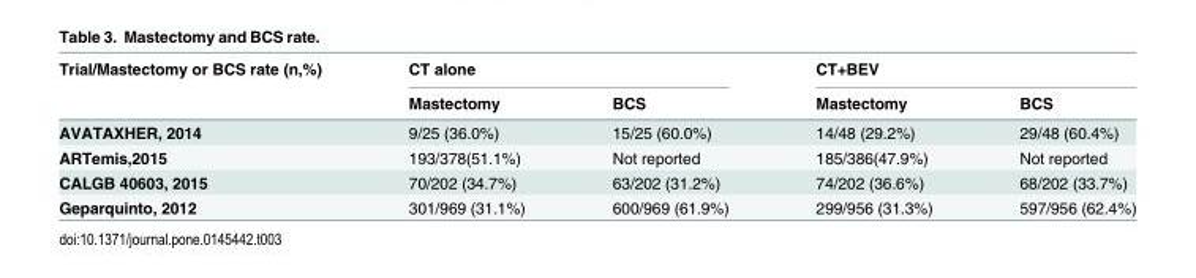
<table><thead><tr><td rowspan="2">Trial/Mastectomy or BCS rate (n,%)</td><td colspan="2">CT alone</td><td colspan="2">CT+BEV</td></tr><tr><td>Mastectomy</td><td>BCS</td><td>Mastectomy</td><td>BCS</td></tr></thead><tbody><tr><td>AVATAXHER, 2014</td><td>9/25 (36.0%)</td><td>15/25 (60.0%)</td><td>14/48 (29.2%)</td><td>29/48 (60.4%)</td></tr><tr><td>ARTemis,2015</td><td>193/378(51.1%)</td><td>Not reported</td><td>185/386(47.9%)</td><td>Not reported</td></tr><tr><td>CALGB 40603, 2015</td><td>70/202 (34.7%)</td><td>63/202 (31.2%)</td><td>74/202 (36.6%)</td><td>68/202 (33.7%)</td></tr><tr><td>Geparquinto, 2012</td><td>301/969 (31.1%)</td><td>600/969 (61.9%)</td><td>299/956 (31.3%)</td><td>597/956 (62.4%)</td></tr></tbody></table>